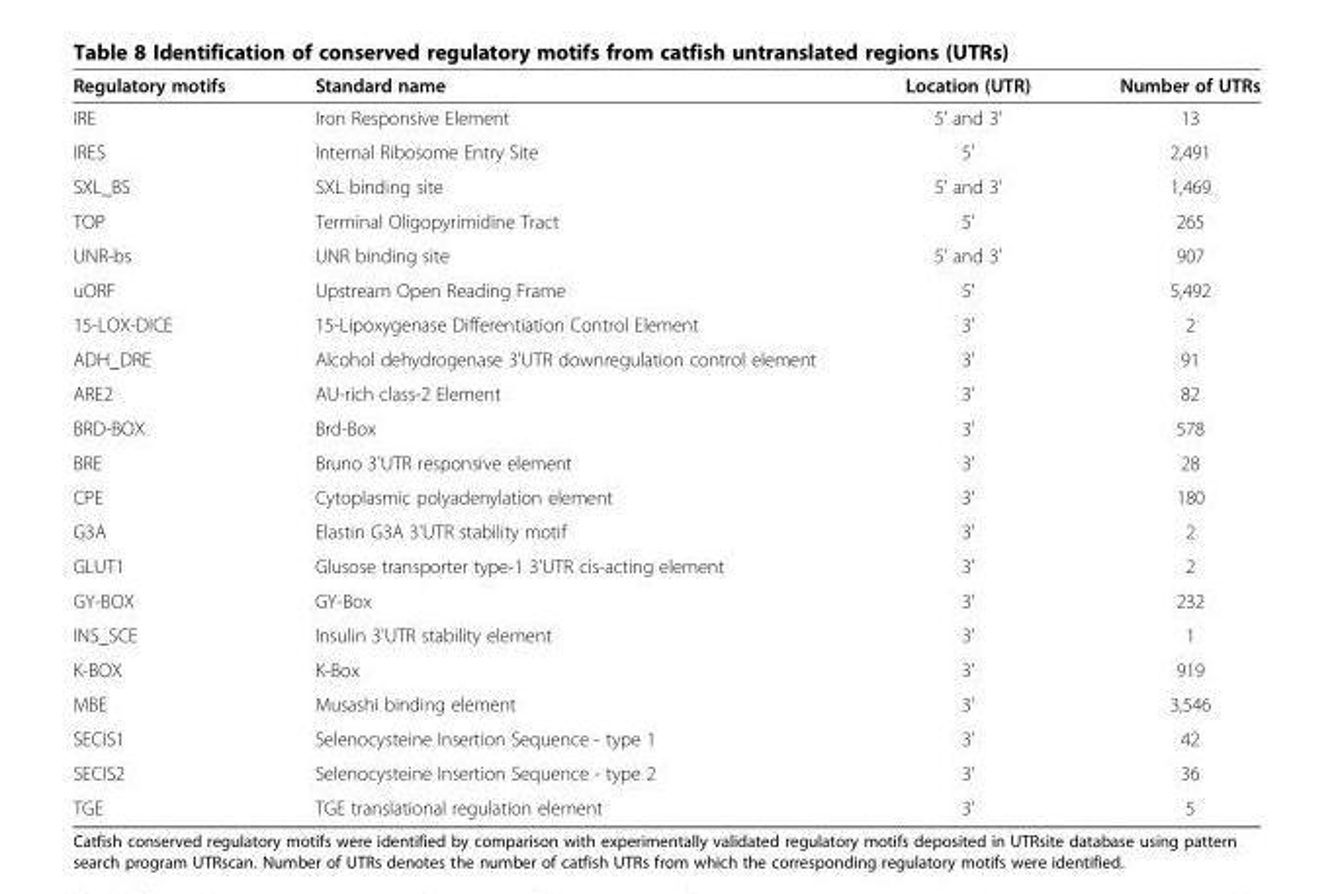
<table><thead><tr><td>Regulatory motifs</td><td>Standard name</td><td>Location (UTR)</td><td>Number of UTRs</td></tr></thead><tbody><tr><td>IRE</td><td>Iron Responsive Element</td><td>5&#x27; and 3’</td><td>13</td></tr><tr><td>IRES</td><td>Internal Ribosome Entry Site</td><td>5&#x27;</td><td>2,491</td></tr><tr><td>SXL_BS</td><td>SXL binding site</td><td>5&#x27; and 3’</td><td>1,469</td></tr><tr><td>TOP</td><td>Terminal Oligopyrimidine Tract</td><td>5&#x27;</td><td>265</td></tr><tr><td>UNR-bs</td><td>UNR binding site</td><td>5&#x27; and 3’</td><td>907</td></tr><tr><td>uORF</td><td>Upstream Open Reading Frame</td><td>5&#x27;</td><td>5,492</td></tr><tr><td>15-LOX-DICE</td><td>15-Lipoxygenase Differentiation Control Element</td><td>3&#x27;</td><td>2</td></tr><tr><td>ADH_DRE</td><td>Alcohol dehydrogenase 3&#x27;UTR downregulation control element</td><td>3&#x27;</td><td>91</td></tr><tr><td>ARE2</td><td>AU-rich class-2 Element</td><td>3&#x27;</td><td>82</td></tr><tr><td>BRD-BOX</td><td>Brd-Box</td><td>3&#x27;</td><td>578</td></tr><tr><td>BRE</td><td>Bruno 3&#x27;UTR responsive element</td><td>3&#x27;</td><td>28</td></tr><tr><td>CPE</td><td>Cytoplasmic polyadenylation element</td><td>3&#x27;</td><td>180</td></tr><tr><td>G3A</td><td>Elastin G3A 3&#x27;UTR stability motif</td><td>3&#x27;</td><td>2</td></tr><tr><td>GLUT1</td><td>Glusose transporter type-1 3&#x27;UTR cis-acting element</td><td>3&#x27;</td><td>2</td></tr><tr><td>GY-BOX</td><td>GY-Box</td><td>3&#x27;</td><td>232</td></tr><tr><td>INS_SCE</td><td>Insulin 3&#x27;UTR stability element</td><td>3&#x27;</td><td>1</td></tr><tr><td>K-BOX</td><td>K-Box</td><td>3&#x27;</td><td>919</td></tr><tr><td>MBE</td><td>Musashi binding element</td><td>3&#x27;</td><td>3,546</td></tr><tr><td>SECIS1</td><td>Selenocysteine Insertion Sequence - type 1</td><td>3&#x27;</td><td>42</td></tr><tr><td>SECIS2</td><td>Selenocysteine Insertion Sequence - type 2</td><td>3&#x27;</td><td>36</td></tr><tr><td>TGE</td><td>TGE translational regulation element</td><td>3&#x27;</td><td>5</td></tr></tbody></table>